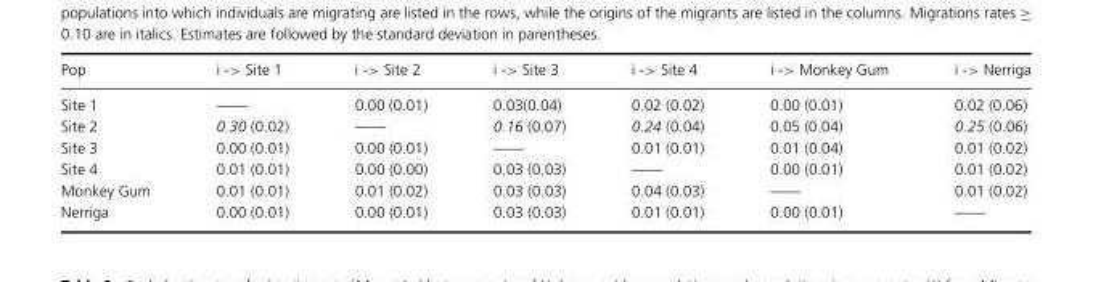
<table><thead><tr><td>Pop</td><td>i -&gt; Site 1</td><td>i -&gt; Site 2</td><td>i -&gt; Site 3</td><td>i -&gt; Site 4</td><td>i -&gt; Monkey Gum</td><td>i -&gt; Nerriga</td></tr></thead><tbody><tr><td>Site 1</td><td>——</td><td>0.00 (0.01)</td><td>0.03(0.04)</td><td>0.02 (0.02)</td><td>0.00 (0.01)</td><td>0.02 (0.06)</td></tr><tr><td>Site 2</td><td>0.30 (0.02)</td><td>——</td><td>0.16 (0.07)</td><td>0.24 (0.04)</td><td>0.05 (0.04)</td><td>0.25 (0.06)</td></tr><tr><td>Site 3</td><td>0.00 (0.01)</td><td>0.00 (0.01)</td><td>——</td><td>0.01 (0.01)</td><td>0.01 (0.04)</td><td>0.01 (0.02)</td></tr><tr><td>Site 4</td><td>0.01 (0.01)</td><td>0.00 (0.00)</td><td>0.03 (0.03)</td><td>——</td><td>0.00 (0.01)</td><td>0.01 (0.02)</td></tr><tr><td>Monkey Gum</td><td>0.01 (0.01)</td><td>0.01 (0.02)</td><td>0.03 (0.03)</td><td>0.04 (0.03)</td><td>——</td><td>0.01 (0.02)</td></tr><tr><td>Nerriga</td><td>0.00 (0.01)</td><td>0.00 (0.01)</td><td>0.03 (0.03)</td><td>0.01 (0.01)</td><td>0.00 (0.01)</td><td>——</td></tr></tbody></table>